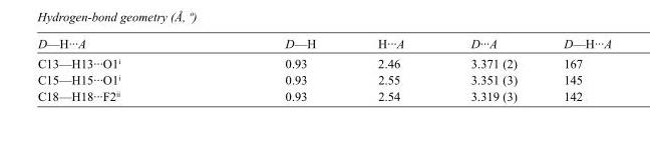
<table><tbody><tr><td>D—H···A</td><td>D—H</td><td>H···A</td><td>D···A</td><td>D—H···A</td></tr><tr><td>C13—H13···O1<sup>i</sup></td><td>0.93</td><td>2.46</td><td>3.371 (2)</td><td>167</td></tr><tr><td>C15—H15···O1<sup>i</sup></td><td>0.93</td><td>2.55</td><td>3.351 (3)</td><td>145</td></tr><tr><td>C18—H18···F2<sup>ii</sup></td><td>0.93</td><td>2.54</td><td>3.319 (3)</td><td>142</td></tr></tbody></table>